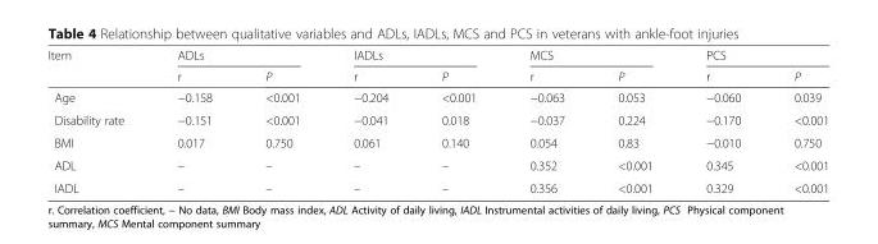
<table><thead><tr><td rowspan="2">Item</td><td colspan="2">ADLs</td><td colspan="2">IADLs</td><td colspan="2">MCS</td><td colspan="2">PCS</td></tr><tr><td>r</td><td>P</td><td>r</td><td>P</td><td>r</td><td>P</td><td>r</td><td>P</td></tr></thead><tbody><tr><td>Age</td><td>−0.158</td><td>&lt;0.001</td><td>−0.204</td><td>&lt;0.001</td><td>−0.063</td><td>0.053</td><td>−0.060</td><td>0.039</td></tr><tr><td>Disability rate</td><td>−0.151</td><td>&lt;0.001</td><td>−0.041</td><td>0.018</td><td>−0.037</td><td>0.224</td><td>−0.170</td><td>&lt;0.001</td></tr><tr><td>BMI</td><td>0.017</td><td>0.750</td><td>0.061</td><td>0.140</td><td>0.054</td><td>0.83</td><td>−0.010</td><td>0.750</td></tr><tr><td>ADL</td><td>–</td><td>–</td><td>–</td><td>–</td><td>0.352</td><td>&lt;0.001</td><td>0.345</td><td>&lt;0.001</td></tr><tr><td>IADL</td><td>–</td><td>–</td><td>–</td><td>–</td><td>0.356</td><td>&lt;0.001</td><td>0.329</td><td>&lt;0.001</td></tr></tbody></table>